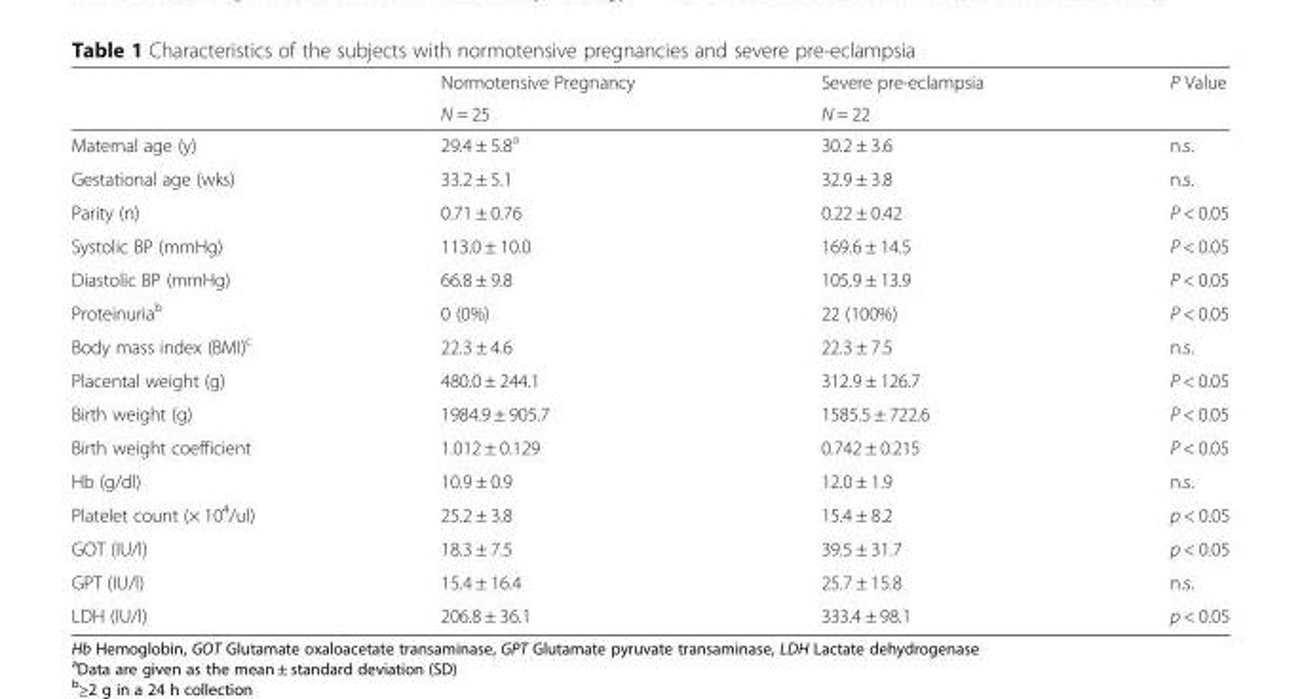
<table><thead><tr><td rowspan="2"></td><td rowspan="2">Normotensive Pregnancy N = 25</td><td rowspan="2">Severe pre-eclampsia N = 22</td><td rowspan="2">P Value</td></tr><tr></tr></thead><tbody><tr><td>Maternal age (y)</td><td>29.4 ± 5.8<sup>a</sup></td><td>30.2 ± 3.6</td><td>n.s.</td></tr><tr><td>Gestational age (wks)</td><td>33.2 ± 5.1</td><td>32.9 ± 3.8</td><td>n.s.</td></tr><tr><td>Parity (n)</td><td>0.71 ± 0.76</td><td>0.22 ± 0.42</td><td>P &lt; 0.05</td></tr><tr><td>Systolic BP (mmHg)</td><td>113.0 ± 10.0</td><td>169.6 ± 14.5</td><td>P &lt; 0.05</td></tr><tr><td>Diastolic BP (mmHg)</td><td>66.8 ± 9.8</td><td>105.9 ± 13.9</td><td>P &lt; 0.05</td></tr><tr><td>Proteinuria<sup>b</sup></td><td>0 (0%)</td><td>22 (100%)</td><td>P &lt; 0.05</td></tr><tr><td>Body mass index (BMI)<sup>c</sup></td><td>22.3 ± 4.6</td><td>22.3 ± 7.5</td><td>n.s.</td></tr><tr><td>Placental weight (g)</td><td>480.0 ± 244.1</td><td>312.9 ± 126.7</td><td>P &lt; 0.05</td></tr><tr><td>Birth weight (g)</td><td>1984.9 ± 905.7</td><td>1585.5 ± 722.6</td><td>P &lt; 0.05</td></tr><tr><td>Birth weight coefficient</td><td>1.012 ± 0.129</td><td>0.742 ± 0.215</td><td>P &lt; 0.05</td></tr><tr><td>Hb (g/dl)</td><td>10.9 ± 0.9</td><td>12.0 ± 1.9</td><td>n.s.</td></tr><tr><td>Platelet count (× 10<sup>4</sup>/ul)</td><td>25.2 ± 3.8</td><td>15.4 ± 8.2</td><td>p &lt; 0.05</td></tr><tr><td>GOT (IU/l)</td><td>18.3 ± 7.5</td><td>39.5 ± 31.7</td><td>p &lt; 0.05</td></tr><tr><td>GPT (IU/l)</td><td>15.4 ± 16.4</td><td>25.7 ± 15.8</td><td>n.s.</td></tr><tr><td>LDH (IU/l)</td><td>206.8 ± 36.1</td><td>333.4 ± 98.1</td><td>p &lt; 0.05</td></tr></tbody></table>